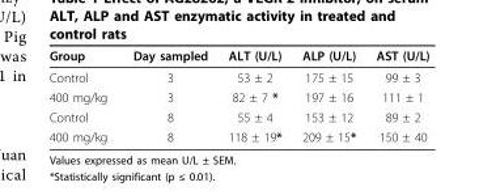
<table><thead><tr><td>Group</td><td>Day sampled</td><td>ALT (U/L)</td><td>ALP (U/L)</td><td>AST (U/L)</td></tr></thead><tbody><tr><td>Control</td><td>3</td><td>53 ± 2</td><td>175 ± 15</td><td>99 ± 3</td></tr><tr><td>400 mg/kg</td><td>3</td><td>82 ± 7 *</td><td>197 ± 16</td><td>111 ± 1</td></tr><tr><td>Control</td><td>8</td><td>55 ± 4</td><td>153 ± 12</td><td>89 ± 2</td></tr><tr><td>400 mg/kg</td><td>8</td><td>118 ± 19*</td><td>209 ± 15*</td><td>150 ± 40</td></tr></tbody></table>